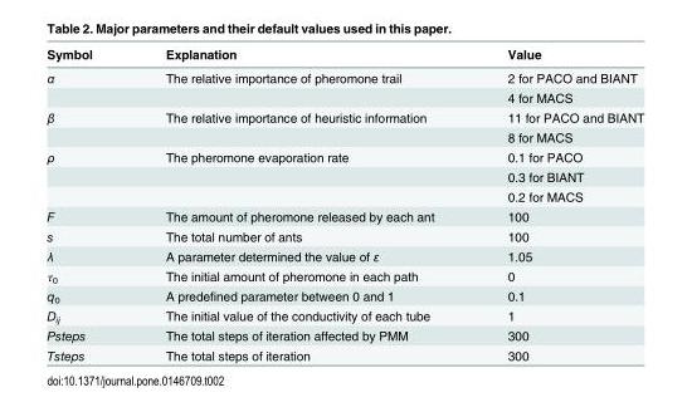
<table><thead><tr><td>Symbol</td><td>Explanation</td><td>Value</td></tr></thead><tbody><tr><td rowspan="2">α</td><td>The relative importance of pheromone trail</td><td>2 for PACO and BIANT</td></tr><tr><td></td><td>4 for MACS</td></tr><tr><td rowspan="2">β</td><td>The relative importance of heuristic information</td><td>11 for PACO and BIANT</td></tr><tr><td></td><td>8 for MACS</td></tr><tr><td rowspan="3">ρ</td><td>The pheromone evaporation rate</td><td>0.1 for PACO</td></tr><tr><td></td><td>0.3 for BIANT</td></tr><tr><td></td><td>0.2 for MACS</td></tr><tr><td>F</td><td>The amount of pheromone released by each ant</td><td>100</td></tr><tr><td>s</td><td>The total number of ants</td><td>100</td></tr><tr><td>λ</td><td>A parameter determined the value of ε</td><td>1.05</td></tr><tr><td>τ<sub>0</sub></td><td>The initial amount of pheromone in each path</td><td>0</td></tr><tr><td>q<sub>0</sub></td><td>A predefined parameter between 0 and 1</td><td>0.1</td></tr><tr><td>D<sub>ij</sub></td><td>The initial value of the conductivity of each tube</td><td>1</td></tr><tr><td>Psteps</td><td>The total steps of iteration affected by PMM</td><td>300</td></tr><tr><td>Tsteps</td><td>The total steps of iteration</td><td>300</td></tr></tbody></table>